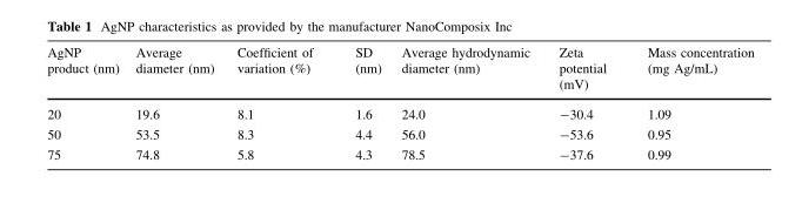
<table><thead><tr><td>AgNP product (nm)</td><td>Average diameter (nm)</td><td>Coefficient of variation (%)</td><td>SD (nm)</td><td>Average hydrodynamic diameter (nm)</td><td>Zeta potential (mV)</td><td>Mass concentration (mg Ag/mL)</td></tr></thead><tbody><tr><td>20</td><td>19.6</td><td>8.1</td><td>1.6</td><td>24.0</td><td>-30.4</td><td>1.09</td></tr><tr><td>50</td><td>53.5</td><td>8.3</td><td>4.4</td><td>56.0</td><td>-53.6</td><td>0.95</td></tr><tr><td>75</td><td>74.8</td><td>5.8</td><td>4.3</td><td>78.5</td><td>-37.6</td><td>0.99</td></tr></tbody></table>